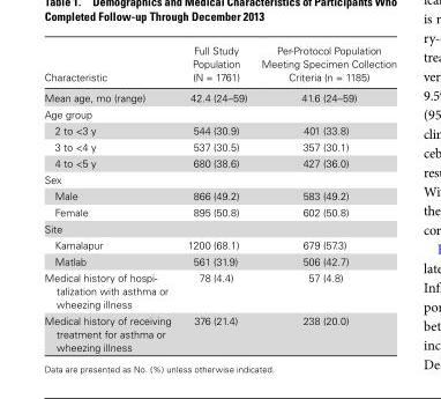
<table><thead><tr><td>Characteristic</td><td>Full Study Population (N = 1761)</td><td>Per-Protocol Population Meeting Specimen Collection Criteria (n = 1185)</td></tr></thead><tbody><tr><td>Mean age, mo (range)</td><td>42.4 (24–59)</td><td>41.6 (24–59)</td></tr><tr><td colspan="3">Age group</td></tr><tr><td>2 to &lt;3 y</td><td>544 (30.9)</td><td>401 (33.8)</td></tr><tr><td>3 to &lt;4 y</td><td>537 (30.5)</td><td>357 (30.1)</td></tr><tr><td>4 to &lt;5 y</td><td>680 (38.6)</td><td>427 (36.0)</td></tr><tr><td colspan="3">Sex</td></tr><tr><td>Male</td><td>866 (49.2)</td><td>583 (49.2)</td></tr><tr><td>Female</td><td>895 (50.8)</td><td>602 (50.8)</td></tr><tr><td colspan="3">Site</td></tr><tr><td>Kamalapur</td><td>1200 (68.1)</td><td>679 (57.3)</td></tr><tr><td>Matlab</td><td>561 (31.9)</td><td>506 (42.7)</td></tr><tr><td>Medical history of hospi- talization with asthma or wheezing illness</td><td>78 (4.4)</td><td>57 (4.8)</td></tr><tr><td>Medical history of receiving treatment for asthma or wheezing illness</td><td>376 (21.4)</td><td>238 (20.0)</td></tr></tbody></table>